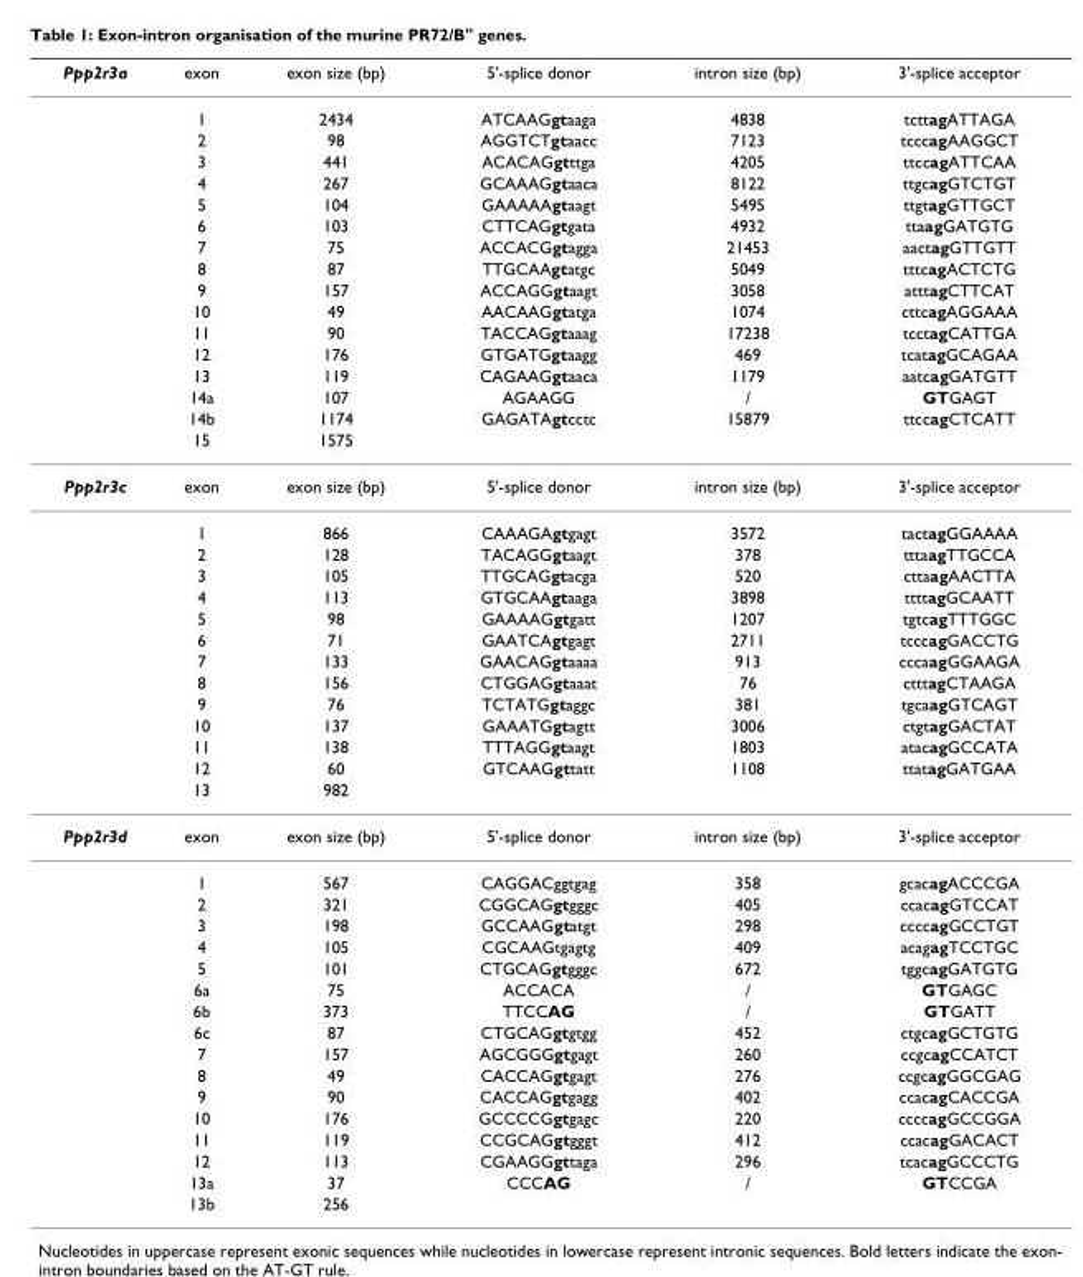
<table><thead><tr><td>Ppp2r3a</td><td>exon</td><td>exon size (bp)</td><td>5&#x27;-splice donor</td><td>intron size (bp)</td><td>3&#x27;-splice acceptor</td></tr></thead><tbody><tr><td></td><td>1</td><td>2434</td><td>ATCAAGgtaaga</td><td>4838</td><td>tcttagATTAGA</td></tr><tr><td></td><td>2</td><td>98</td><td>AGGTCTgtaacc</td><td>7123</td><td>tcccagAAGGCT</td></tr><tr><td></td><td>3</td><td>441</td><td>ACACAGgtttga</td><td>4205</td><td>ttccagATTCAA</td></tr><tr><td></td><td>4</td><td>267</td><td>GCAAAGgtaaca</td><td>8122</td><td>ttgcagGTCTGT</td></tr><tr><td></td><td>5</td><td>104</td><td>GAAAAAgtaagt</td><td>5495</td><td>ttgtagGTTGCT</td></tr><tr><td></td><td>6</td><td>103</td><td>CTTCAGgtgata</td><td>4932</td><td>ttaagGATGTG</td></tr><tr><td></td><td>7</td><td>75</td><td>ACCACGgtagga</td><td>21453</td><td>aactagGTTGTT</td></tr><tr><td></td><td>8</td><td>87</td><td>TTGCAAgtatgc</td><td>5049</td><td>tttcagACTCTG</td></tr><tr><td></td><td>9</td><td>157</td><td>ACCAGGgtaagt</td><td>3058</td><td>atttagCTTCAT</td></tr><tr><td></td><td>10</td><td>49</td><td>AACAAGgtatga</td><td>1074</td><td>cttcagAGGAAA</td></tr><tr><td></td><td>11</td><td>90</td><td>TACCAGgtaaag</td><td>17238</td><td>tcctagCATTGA</td></tr><tr><td></td><td>12</td><td>176</td><td>GTGATGgtaagg</td><td>469</td><td>tcatagGCAGAA</td></tr><tr><td></td><td>13</td><td>119</td><td>CAGAAGgtaaca</td><td>1179</td><td>aatcagGATGTT</td></tr><tr><td></td><td>14a</td><td>107</td><td>AGAAGG</td><td>/</td><td>GTGAGT</td></tr><tr><td></td><td>14b</td><td>1174</td><td>GAGATAgtcctc</td><td>15879</td><td>ttccagCTCATT</td></tr><tr><td></td><td>15</td><td>1575</td><td></td><td></td><td></td></tr><tr><td rowspan="14">Ppp2r3c</td><td>exon</td><td>exon size (bp)</td><td>5&#x27;-splice donor</td><td>intron size (bp)</td><td>3&#x27;-splice acceptor</td></tr><tr><td>1</td><td>866</td><td>CAAAGAgtgagt</td><td>3572</td><td>tactagGGAAAA</td></tr><tr><td>2</td><td>128</td><td>TACAGGgtaagt</td><td>378</td><td>tttaagTTGCCA</td></tr><tr><td>3</td><td>105</td><td>TTGCAGgtacga</td><td>520</td><td>cttaagAACTTA</td></tr><tr><td>4</td><td>113</td><td>GTGCAAgtaaga</td><td>3898</td><td>ttttagGCAATT</td></tr><tr><td>5</td><td>98</td><td>GAAAAGgtgatt</td><td>1207</td><td>tgtcagTTTGGC</td></tr><tr><td>6</td><td>71</td><td>GAATCAgtgagt</td><td>2711</td><td>tcccagGACCTG</td></tr><tr><td>7</td><td>133</td><td>GAACAGgtaaaa</td><td>913</td><td>cccaagGGAAGA</td></tr><tr><td>8</td><td>156</td><td>CTGGAGgtaaat</td><td>76</td><td>ctttagCTAAGA</td></tr><tr><td>9</td><td>76</td><td>TCTATGgtaggc</td><td>381</td><td>tgcaagGTCAGT</td></tr><tr><td>10</td><td>137</td><td>GAAATGgtagtt</td><td>3006</td><td>ctgtagGACTAT</td></tr><tr><td>11</td><td>138</td><td>TTTAGGgtaagt</td><td>1803</td><td>atacagGCCATA</td></tr><tr><td>12</td><td>60</td><td>GTCAAGgttatt</td><td>1108</td><td>ttatagGATGAA</td></tr><tr><td>13</td><td>982</td><td></td><td></td><td></td></tr><tr><td rowspan="17">Ppp2r3d</td><td>exon</td><td>exon size (bp)</td><td>5&#x27;-splice donor</td><td>intron size (bp)</td><td>3&#x27;-splice acceptor</td></tr><tr><td>1</td><td>567</td><td>CAGGACggtgag</td><td>358</td><td>gcacagACCCGA</td></tr><tr><td>2</td><td>321</td><td>CGGCAGgtgggc</td><td>405</td><td>ccacagGTCCAT</td></tr><tr><td>3</td><td>198</td><td>GCCAAGgtatgt</td><td>298</td><td>ccccagGCCTGT</td></tr><tr><td>4</td><td>105</td><td>CGCAAGtgagtg</td><td>409</td><td>acagagTCCTGC</td></tr><tr><td>5</td><td>101</td><td>CTGCAGgtgggc</td><td>672</td><td>tggcagGATGTG</td></tr><tr><td>6a</td><td>75</td><td>ACCACA</td><td>/</td><td>GTGAGC</td></tr><tr><td>6b</td><td>373</td><td>TTCCAG</td><td>/</td><td>GTGATT</td></tr><tr><td>6c</td><td>87</td><td>CTGCAGgtgtgg</td><td>452</td><td>ctgcagGCTGTG</td></tr><tr><td>7</td><td>157</td><td>AGCGGGgtgagt</td><td>260</td><td>ccgcagCCATCT</td></tr><tr><td>8</td><td>49</td><td>CACCAGgtgagt</td><td>276</td><td>ccgcagGGCGAG</td></tr><tr><td>9</td><td>90</td><td>CACCAGgtgagg</td><td>402</td><td>ccacagCACCGA</td></tr><tr><td>10</td><td>176</td><td>GCCCCGgtgagc</td><td>220</td><td>ccccagGCCGGA</td></tr><tr><td>11</td><td>119</td><td>CCGCAGgtgggt</td><td>412</td><td>ccacagGACACT</td></tr><tr><td>12</td><td>113</td><td>CGAAGGgttaga</td><td>296</td><td>tcacagGCCCTG</td></tr><tr><td>13a</td><td>37</td><td>CCCAG</td><td>/</td><td>GTCCGA</td></tr><tr><td>13b</td><td>256</td><td></td><td></td><td></td></tr></tbody></table>